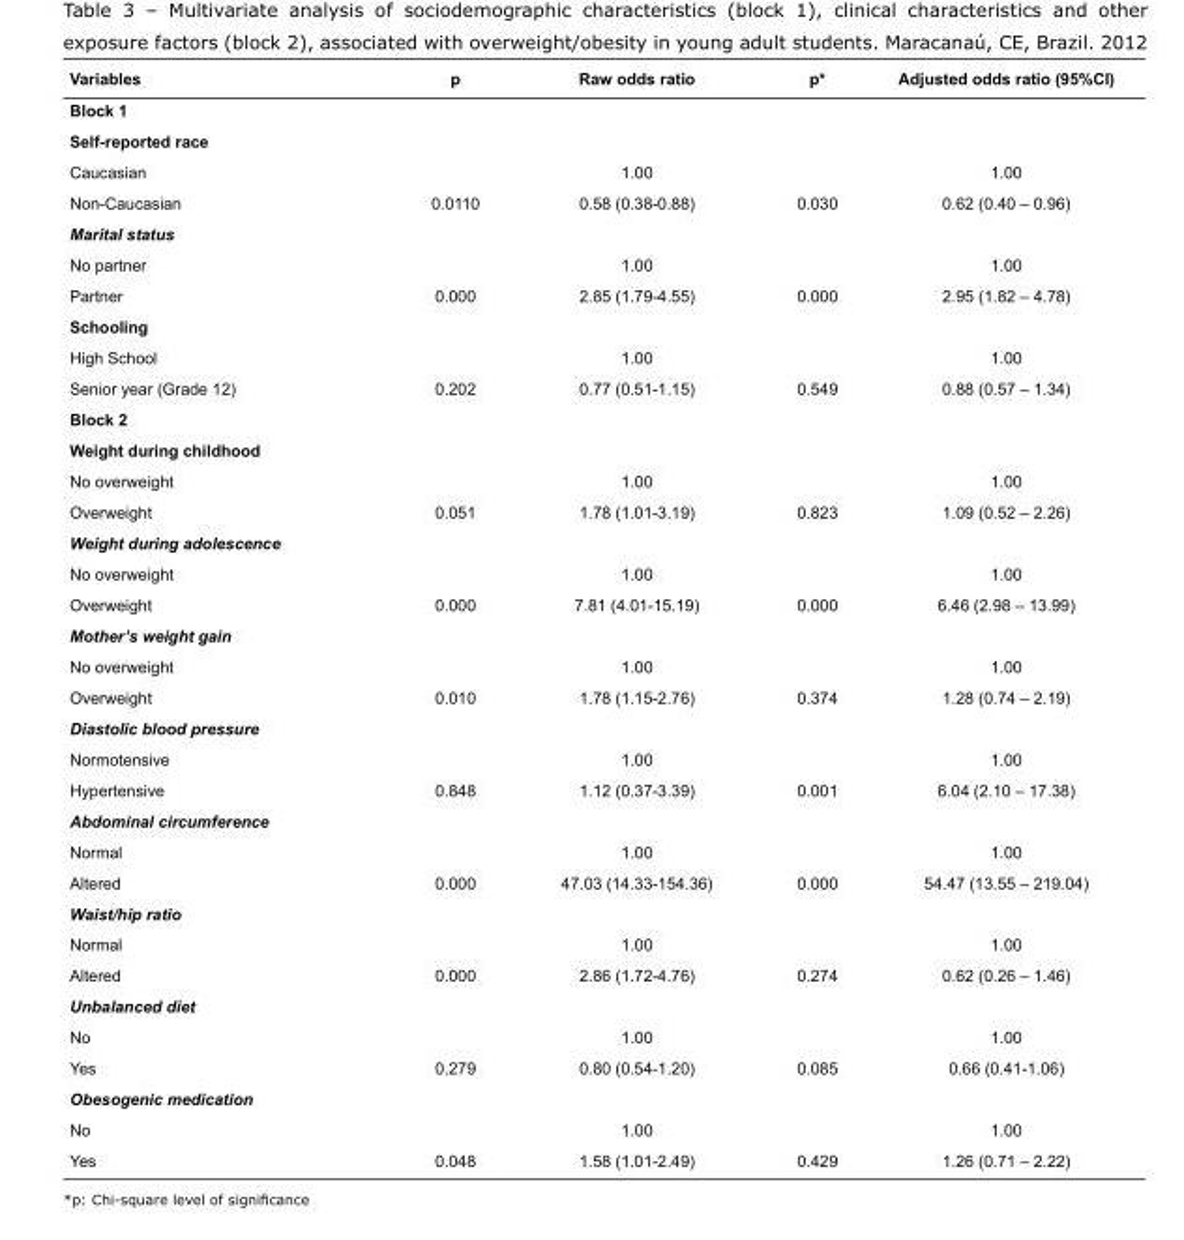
<table><thead><tr><td>Variables</td><td>p</td><td>Raw odds ratio</td><td>p*</td><td>Adjusted odds ratio (95%CI)</td></tr></thead><tbody><tr><td colspan="5">Block 1</td></tr><tr><td colspan="5">Self-reported race</td></tr><tr><td>Caucasian</td><td></td><td>1.00</td><td></td><td>1.00</td></tr><tr><td>Non-Caucasian</td><td>0.0110</td><td>0.58 (0.38-0.88)</td><td>0.030</td><td>0.62 (0.40 – 0.96)</td></tr><tr><td colspan="5">Marital status</td></tr><tr><td>No partner</td><td></td><td>1.00</td><td></td><td>1.00</td></tr><tr><td>Partner</td><td>0.000</td><td>2.85 (1.79-4.55)</td><td>0.000</td><td>2.95 (1.82 – 4.78)</td></tr><tr><td colspan="5">Schooling</td></tr><tr><td>High School</td><td></td><td>1.00</td><td></td><td>1.00</td></tr><tr><td>Senior year (Grade 12)</td><td>0.202</td><td>0.77 (0.51-1.15)</td><td>0.549</td><td>0.88 (0.57 – 1.34)</td></tr><tr><td colspan="5">Block 2</td></tr><tr><td colspan="5">Weight during childhood</td></tr><tr><td>No overweight</td><td></td><td>1.00</td><td></td><td>1.00</td></tr><tr><td>Overweight</td><td>0.051</td><td>1.78 (1.01-3.19)</td><td>0.823</td><td>1.09 (0.52 – 2.26)</td></tr><tr><td colspan="5">Weight during adolescence</td></tr><tr><td>No overweight</td><td></td><td>1.00</td><td></td><td>1.00</td></tr><tr><td>Overweight</td><td>0.000</td><td>7.81 (4.01-15.19)</td><td>0.000</td><td>6.46 (2.98 – 13.99)</td></tr><tr><td colspan="5">Mother’s weight gain</td></tr><tr><td>No overweight</td><td></td><td>1.00</td><td></td><td>1.00</td></tr><tr><td>Overweight</td><td>0.010</td><td>1.78 (1.15-2.76)</td><td>0.374</td><td>1.28 (0.74 – 2.19)</td></tr><tr><td colspan="5">Diastolic blood pressure</td></tr><tr><td>Normotensive</td><td></td><td>1.00</td><td></td><td>1.00</td></tr><tr><td>Hypertensive</td><td>0.848</td><td>1.12 (0.37-3.39)</td><td>0.001</td><td>6.04 (2.10 – 17.38)</td></tr><tr><td colspan="5">Abdominal circumference</td></tr><tr><td>Normal</td><td></td><td>1.00</td><td></td><td>1.00</td></tr><tr><td>Altered</td><td>0.000</td><td>47.03 (14.33-154.36)</td><td>0.000</td><td>54.47 (13.55 – 219.04)</td></tr><tr><td colspan="5">Waist/hip ratio</td></tr><tr><td>Normal</td><td></td><td>1.00</td><td></td><td>1.00</td></tr><tr><td>Altered</td><td>0.000</td><td>2.86 (1.72-4.76)</td><td>0.274</td><td>0.62 (0.26 – 1.46)</td></tr><tr><td colspan="5">Unbalanced diet</td></tr><tr><td>No</td><td></td><td>1.00</td><td></td><td>1.00</td></tr><tr><td>Yes</td><td>0.279</td><td>0.80 (0.54-1.20)</td><td>0.085</td><td>0.66 (0.41-1.06)</td></tr><tr><td colspan="5">Obesogenic medication</td></tr><tr><td>No</td><td></td><td>1.00</td><td></td><td>1.00</td></tr><tr><td>Yes</td><td>0.048</td><td>1.58 (1.01-2.49)</td><td>0.429</td><td>1.26 (0.71 – 2.22)</td></tr></tbody></table>